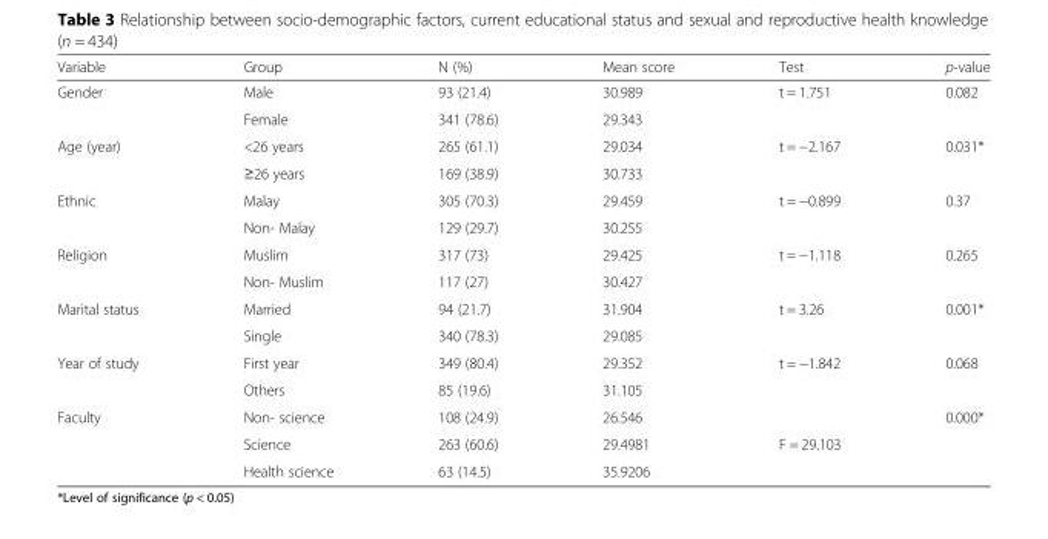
<table><thead><tr><td>Variable</td><td>Group</td><td>N (%)</td><td>Mean score</td><td>Test</td><td>p-value</td></tr></thead><tbody><tr><td rowspan="2">Gender</td><td>Male</td><td>93 (21.4)</td><td>30.989</td><td>t = 1.751</td><td>0.082</td></tr><tr><td>Female</td><td>341 (78.6)</td><td>29.343</td><td></td><td></td></tr><tr><td rowspan="2">Age (year)</td><td>&lt;26 years</td><td>265 (61.1)</td><td>29.034</td><td>t = −2.167</td><td>0.031*</td></tr><tr><td>≥26 years</td><td>169 (38.9)</td><td>30.733</td><td></td><td></td></tr><tr><td rowspan="2">Ethnic</td><td>Malay</td><td>305 (70.3)</td><td>29.459</td><td>t = −0.899</td><td>0.37</td></tr><tr><td>Non- Malay</td><td>129 (29.7)</td><td>30.255</td><td></td><td></td></tr><tr><td rowspan="2">Religion</td><td>Muslim</td><td>317 (73)</td><td>29.425</td><td>t = −1.118</td><td>0.265</td></tr><tr><td>Non- Muslim</td><td>117 (27)</td><td>30.427</td><td></td><td></td></tr><tr><td rowspan="2">Marital status</td><td>Married</td><td>94 (21.7)</td><td>31.904</td><td>t = 3.26</td><td>0.001*</td></tr><tr><td>Single</td><td>340 (78.3)</td><td>29.085</td><td></td><td></td></tr><tr><td rowspan="2">Year of study</td><td>First year</td><td>349 (80.4)</td><td>29.352</td><td>t = −1.842</td><td>0.068</td></tr><tr><td>Others</td><td>85 (19.6)</td><td>31.105</td><td></td><td></td></tr><tr><td rowspan="3">Faculty</td><td>Non- science</td><td>108 (24.9)</td><td>26.546</td><td></td><td>0.000*</td></tr><tr><td>Science</td><td>263 (60.6)</td><td>29.4981</td><td rowspan="2">F = 29.103</td><td rowspan="2"></td></tr><tr><td>Health science</td><td>63 (14.5)</td><td>35.9206</td></tr></tbody></table>